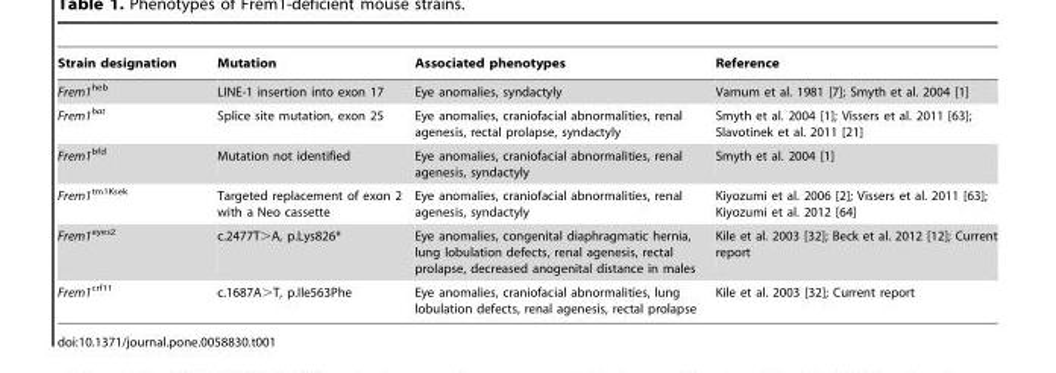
<table><thead><tr><td>Strain designation</td><td>Mutation</td><td>Associated phenotypes</td><td>Reference</td></tr></thead><tbody><tr><td>Frem1<sup>heb</sup></td><td>LINE-1 insertion into exon 17</td><td>Eye anomalies, syndactyly</td><td>Varnum et al. 1981 [7]; Smyth et al. 2004 [1]</td></tr><tr><td>Frem1<sup>bat</sup></td><td>Splice site mutation, exon 25</td><td>Eye anomalies, craniofacial abnormalities, renal agenesis, rectal prolapse, syndactyly</td><td>Smyth et al. 2004 [1]; Vissers et al. 2011 [63]; Slavotinek et al. 2011 [21]</td></tr><tr><td>Frem1<sup>bfd</sup></td><td>Mutation not identified</td><td>Eye anomalies, craniofacial abnormalities, renal agenesis, syndactyly</td><td>Smyth et al. 2004 [1]</td></tr><tr><td>Frem1<sup>tm1Ksek</sup></td><td>Targeted replacement of exon 2 with a Neo cassette</td><td>Eye anomalies, craniofacial abnormalities, renal agenesis, syndactyly</td><td>Kiyozumi et al. 2006 [2]; Vissers et al. 2011 [63]; Kiyozumi et al. 2012 [64]</td></tr><tr><td>Frem1<sup>eyes2</sup></td><td>c.2477T&gt;A, p.Lys826*</td><td>Eye anomalies, congenital diaphragmatic hernia, lung lobulation defects, renal agenesis, rectal prolapse, decreased anogenital distance in males</td><td>Kile et al. 2003 [32]; Beck et al. 2012 [12]; Current report</td></tr><tr><td>Frem1<sup>crf11</sup></td><td>c.1687A&gt;T, p.Ile563Phe</td><td>Eye anomalies, craniofacial abnormalities, lung lobulation defects, renal agenesis, rectal prolapse</td><td>Kile et al. 2003 [32]; Current report</td></tr></tbody></table>